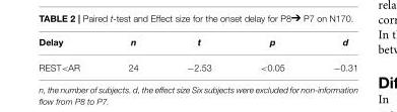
<table><thead><tr><td>Delay</td><td>n</td><td>t</td><td>p</td><td>d</td></tr></thead><tbody><tr><td>REST&lt;AR</td><td>24</td><td>−2.53</td><td>&lt;0.05</td><td>−0.31</td></tr></tbody></table>